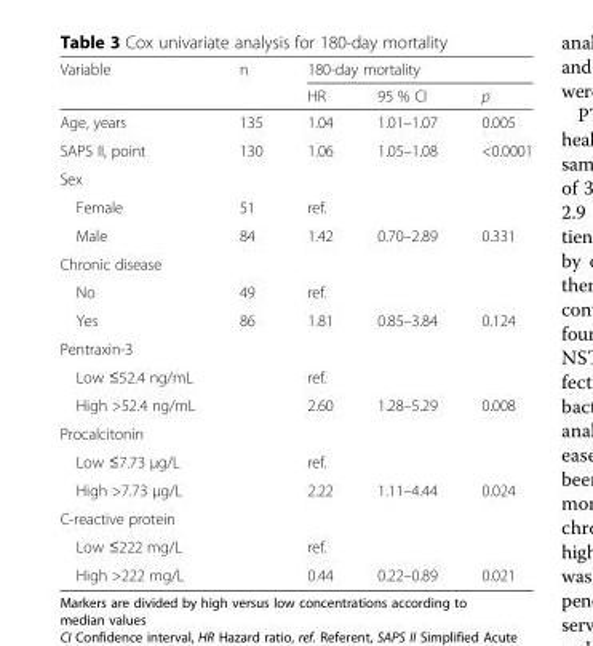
<table><thead><tr><td rowspan="2">Variable</td><td rowspan="2">n</td><td colspan="3">180-day mortality</td></tr><tr><td>HR</td><td>95 % CI</td><td>p</td></tr></thead><tbody><tr><td>Age, years</td><td>135</td><td>1.04</td><td>1.01–1.07</td><td>0.005</td></tr><tr><td>SAPS II, point</td><td>130</td><td>1.06</td><td>1.05–1.08</td><td>&lt;0.0001</td></tr><tr><td colspan="5">Sex</td></tr><tr><td>Female</td><td>51</td><td>ref.</td><td></td><td></td></tr><tr><td>Male</td><td>84</td><td>1.42</td><td>0.70–2.89</td><td>0.331</td></tr><tr><td colspan="5">Chronic disease</td></tr><tr><td>No</td><td>49</td><td>ref.</td><td></td><td></td></tr><tr><td>Yes</td><td>86</td><td>1.81</td><td>0.85–3.84</td><td>0.124</td></tr><tr><td colspan="5">Pentraxin-3</td></tr><tr><td>Low ≤52.4 ng/mL</td><td></td><td>ref.</td><td></td><td></td></tr><tr><td>High &gt;52.4 ng/mL</td><td></td><td>2.60</td><td>1.28–5.29</td><td>0.008</td></tr><tr><td colspan="5">Procalcitonin</td></tr><tr><td>Low ≤7.73 μg/L</td><td></td><td>ref.</td><td></td><td></td></tr><tr><td>High &gt;7.73 μg/L</td><td></td><td>2.22</td><td>1.11–4.44</td><td>0.024</td></tr><tr><td colspan="5">C-reactive protein</td></tr><tr><td>Low ≤222 mg/L</td><td></td><td>ref.</td><td></td><td></td></tr><tr><td>High &gt;222 mg/L</td><td></td><td>0.44</td><td>0.22–0.89</td><td>0.021</td></tr></tbody></table>